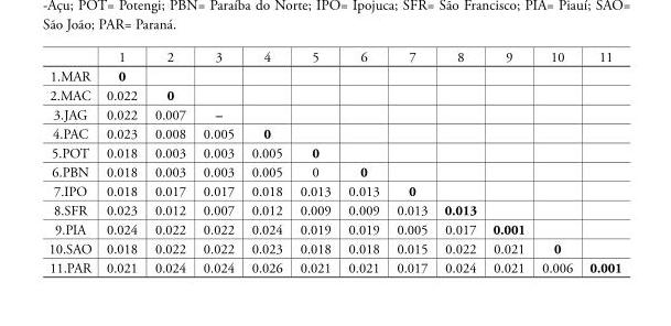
<table><thead><tr><td></td><td>1</td><td>2</td><td>3</td><td>4</td><td>5</td><td>6</td><td>7</td><td>8</td><td>9</td><td>10</td><td>11</td></tr></thead><tbody><tr><td>1.MAR</td><td>0</td><td></td><td></td><td></td><td></td><td></td><td></td><td></td><td></td><td></td><td></td></tr><tr><td>2.MAC</td><td>0.022</td><td>0</td><td></td><td></td><td></td><td></td><td></td><td></td><td></td><td></td><td></td></tr><tr><td>3.JAG</td><td>0.022</td><td>0.007</td><td>–</td><td></td><td></td><td></td><td></td><td></td><td></td><td></td><td></td></tr><tr><td>4.PAC</td><td>0.023</td><td>0.008</td><td>0.005</td><td>0</td><td></td><td></td><td></td><td></td><td></td><td></td><td></td></tr><tr><td>5.POT</td><td>0.018</td><td>0.003</td><td>0.003</td><td>0.005</td><td>0</td><td></td><td></td><td></td><td></td><td></td><td></td></tr><tr><td>6.PBN</td><td>0.018</td><td>0.003</td><td>0.003</td><td>0.005</td><td>0</td><td>0</td><td></td><td></td><td></td><td></td><td></td></tr><tr><td>7.IPO</td><td>0.018</td><td>0.017</td><td>0.017</td><td>0.018</td><td>0.013</td><td>0.013</td><td>0</td><td></td><td></td><td></td><td></td></tr><tr><td>8.SFR</td><td>0.023</td><td>0.012</td><td>0.007</td><td>0.012</td><td>0.009</td><td>0.009</td><td>0.013</td><td>0.013</td><td></td><td></td><td></td></tr><tr><td>9.PIA</td><td>0.024</td><td>0.022</td><td>0.022</td><td>0.024</td><td>0.019</td><td>0.019</td><td>0.005</td><td>0.017</td><td>0.001</td><td></td><td></td></tr><tr><td>10.SAO</td><td>0.018</td><td>0.022</td><td>0.022</td><td>0.023</td><td>0.018</td><td>0.018</td><td>0.015</td><td>0.022</td><td>0.021</td><td>0</td><td></td></tr><tr><td>11.PAR</td><td>0.021</td><td>0.024</td><td>0.024</td><td>0.026</td><td>0.021</td><td>0.021</td><td>0.017</td><td>0.024</td><td>0.021</td><td>0.006</td><td>0.001</td></tr></tbody></table>